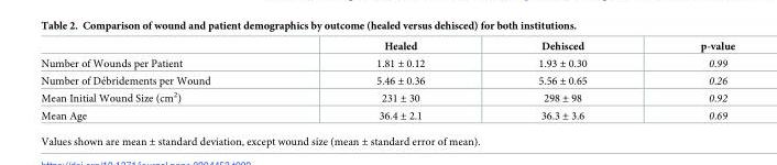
<table><thead><tr><td></td><td>Healed</td><td>Dehisced</td><td>p-value</td></tr></thead><tbody><tr><td>Number of Wounds per Patient</td><td>1.81 ± 0.12</td><td>1.93 ± 0.30</td><td>0.99</td></tr><tr><td>Number of De´bridements per Wound</td><td>5.46 ± 0.36</td><td>5.56 ± 0.65</td><td>0.26</td></tr><tr><td>Mean Initial Wound Size (cm<sup>2</sup>)</td><td>231 ± 30</td><td>298 ± 98</td><td>0.92</td></tr><tr><td>Mean Age</td><td>36.4 ± 2.1</td><td>36.3 ± 3.6</td><td>0.69</td></tr></tbody></table>